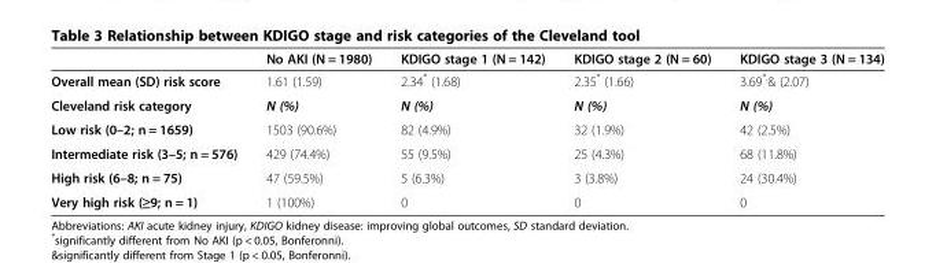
<table><thead><tr><td></td><td>No AKI (N = 1980)</td><td>KDIGO stage 1 (N = 142)</td><td>KDIGO stage 2 (N = 60)</td><td>KDIGO stage 3 (N = 134)</td></tr></thead><tbody><tr><td>Overall mean (SD) risk score</td><td>1.61 (1.59)</td><td>2.34* (1.68)</td><td>2.35* (1.66)</td><td>3.69<sup>*,</sup>&amp; (2.07)</td></tr><tr><td>Cleveland risk category</td><td>N (%)</td><td>N (%)</td><td>N (%)</td><td>N (%)</td></tr><tr><td>Low risk (0–2; n = 1659)</td><td>1503 (90.6%)</td><td>82 (4.9%)</td><td>32 (1.9%)</td><td>42 (2.5%)</td></tr><tr><td>Intermediate risk (3–5; n = 576)</td><td>429 (74.4%)</td><td>55 (9.5%)</td><td>25 (4.3%)</td><td>68 (11.8%)</td></tr><tr><td>High risk (6–8; n = 75)</td><td>47 (59.5%)</td><td>5 (6.3%)</td><td>3 (3.8%)</td><td>24 (30.4%)</td></tr><tr><td>Very high risk (≥9; n = 1)</td><td>1 (100%)</td><td>0</td><td>0</td><td>0</td></tr></tbody></table>